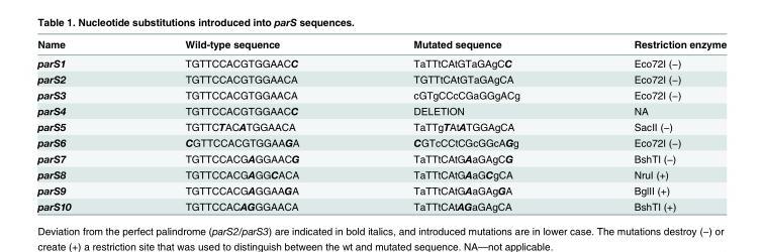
<table><thead><tr><td>Name</td><td>Wild-type sequence</td><td>Mutated sequence</td><td>Restriction enzyme</td></tr></thead><tbody><tr><td>parS1</td><td>TGTTCCACGTGGAACC</td><td>TaTTtCAtGTaGAgCC</td><td>Eco72I (−)</td></tr><tr><td>parS2</td><td>TGTTCCACGTGGAACA</td><td>TGTTtCAtGTaGAgCA</td><td>Eco72I (−)</td></tr><tr><td>parS3</td><td>TGTTCCACGTGGAACA</td><td>cGTgCCcCGaGGgACg</td><td>Eco72I (−)</td></tr><tr><td>parS4</td><td>TGTTCCACGTGGAACC</td><td>DELETION</td><td>NA</td></tr><tr><td>parS5</td><td>TGTTCTACATGGAACA</td><td>TaTTgTAtATGGAgCA</td><td>SacII (−)</td></tr><tr><td>parS6</td><td>CGTTCCACGTGGAAGA</td><td>CGTcCCtCGcGGcAGg</td><td>Eco72I (−)</td></tr><tr><td>parS7</td><td>TGTTCCACGAGGAACG</td><td>TaTTtCAtGAaGAgCG</td><td>BshTI (−)</td></tr><tr><td>parS8</td><td>TGTTCCACGAGGCACA</td><td>TaTTtCAtGAaGCgCA</td><td>NruI (+)</td></tr><tr><td>parS9</td><td>TGTTCCACGAGGAAGA</td><td>TaTTtCAtGAaGAgGA</td><td>BglII (+)</td></tr><tr><td>parS10</td><td>TGTTCCACAGGGAACA</td><td>TaTTtCAtAGaGAgCA</td><td>BshTI (+)</td></tr></tbody></table>